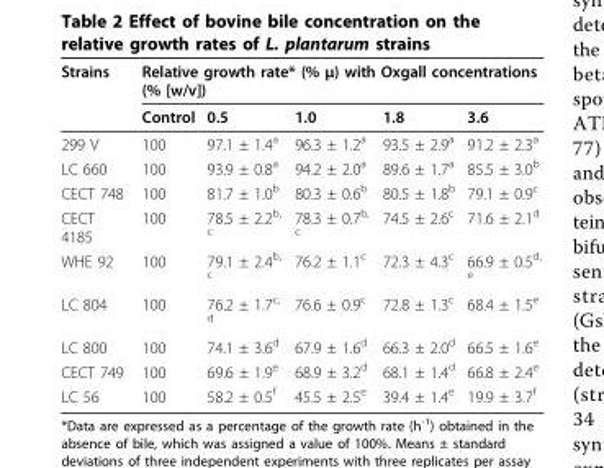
<table><thead><tr><td rowspan="2">Strains</td><td colspan="5">Relative growth rate* (% μ) with Oxgall concentrations (% [w/v])</td></tr><tr><td>Control</td><td>0.5</td><td>1.0</td><td>1.8</td><td>3.6</td></tr></thead><tbody><tr><td>299 V</td><td>100</td><td>97.1 ± 1.4<sup>a</sup></td><td>96.3 ± 1.2<sup>a</sup></td><td>93.5 ± 2.9<sup>a</sup></td><td>91.2 ± 2.3<sup>a</sup></td></tr><tr><td>LC 660</td><td>100</td><td>93.9 ± 0.8<sup>a</sup></td><td>94.2 ± 2.0<sup>a</sup></td><td>89.6 ± 1.7<sup>a</sup></td><td>85.5 ± 3.0<sup>b</sup></td></tr><tr><td>CECT 748</td><td>100</td><td>81.7 ± 1.0<sup>b</sup></td><td>80.3 ± 0.6<sup>b</sup></td><td>80.5 ± 1.8<sup>b</sup></td><td>79.1 ± 0.9<sup>c</sup></td></tr><tr><td>CECT 4185</td><td>100</td><td>78.5 ± 2.2<sup>b, c</sup></td><td>78.3 ± 0.7<sup>b, c</sup></td><td>74.5 ± 2.6<sup>c</sup></td><td>71.6 ± 2.1<sup>d</sup></td></tr><tr><td>WHE 92</td><td>100</td><td>79.1 ± 2.4<sup>b, c</sup></td><td>76.2 ± 1.1<sup>c</sup></td><td>72.3 ± 4.3<sup>c</sup></td><td>66.9 ± 0.5<sup>d, e</sup></td></tr><tr><td>LC 804</td><td>100</td><td>76.2 ± 1.7<sup>c, d</sup></td><td>76.6 ± 0.9<sup>c</sup></td><td>72.8 ± 1.3<sup>c</sup></td><td>68.4 ± 1.5<sup>e</sup></td></tr><tr><td>LC 800</td><td>100</td><td>74.1 ± 3.6<sup>d</sup></td><td>67.9 ± 1.6<sup>d</sup></td><td>66.3 ± 2.0<sup>d</sup></td><td>66.5 ± 1.6<sup>e</sup></td></tr><tr><td>CECT 749</td><td>100</td><td>69.6 ± 1.9<sup>e</sup></td><td>68.9 ± 3.2<sup>d</sup></td><td>68.1 ± 1.4<sup>d</sup></td><td>66.8 ± 2.4<sup>e</sup></td></tr><tr><td>LC 56</td><td>100</td><td>58.2 ± 0.5<sup>f</sup></td><td>45.5 ± 2.5<sup>e</sup></td><td>39.4 ± 1.4<sup>e</sup></td><td>19.9 ± 3.7<sup>f</sup></td></tr></tbody></table>